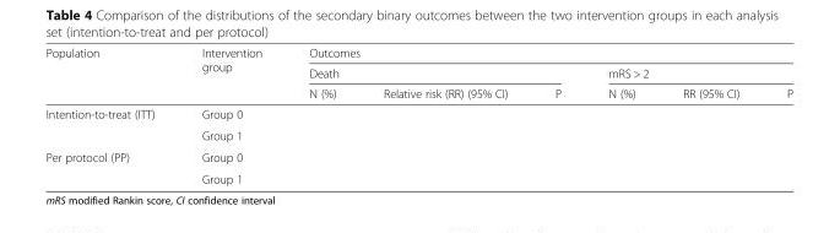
<table><thead><tr><td rowspan="3">Population</td><td rowspan="3">Intervention group</td><td colspan="6">Outcomes</td></tr><tr><td colspan="3">Death</td><td colspan="3">mRS &gt; 2</td></tr><tr><td>N (%)</td><td>Relative risk (RR) (95% CI)</td><td>P</td><td>N (%)</td><td>RR (95% CI)</td><td>P</td></tr></thead><tbody><tr><td rowspan="2">Intention-to-treat (ITT)</td><td>Group 0</td><td></td><td rowspan="2"></td><td rowspan="2"></td><td></td><td rowspan="2"></td><td rowspan="2"></td></tr><tr><td>Group 1</td><td></td><td></td></tr><tr><td rowspan="2">Per protocol (PP)</td><td>Group 0</td><td></td><td rowspan="2"></td><td rowspan="2"></td><td></td><td rowspan="2"></td><td rowspan="2"></td></tr><tr><td>Group 1</td><td></td><td></td></tr></tbody></table>